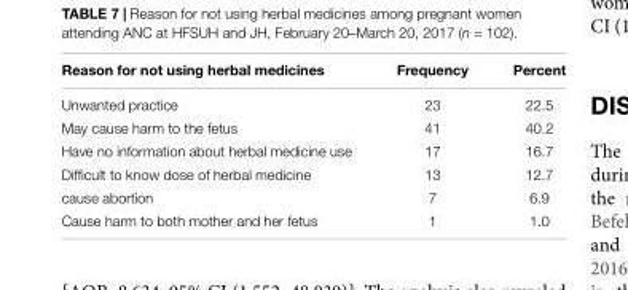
<table><thead><tr><td>Reason for not using herbal medicines</td><td>Frequency</td><td>Percent</td></tr></thead><tbody><tr><td>Unwanted practice</td><td>23</td><td>22.5</td></tr><tr><td>May cause harm to the fetus</td><td>41</td><td>40.2</td></tr><tr><td>Have no information about herbal medicine use</td><td>17</td><td>16.7</td></tr><tr><td>Difficult to know dose of herbal medicine</td><td>13</td><td>12.7</td></tr><tr><td>cause abortion</td><td>7</td><td>6.9</td></tr><tr><td>Cause harm to both mother and her fetus</td><td>1</td><td>1.0</td></tr></tbody></table>